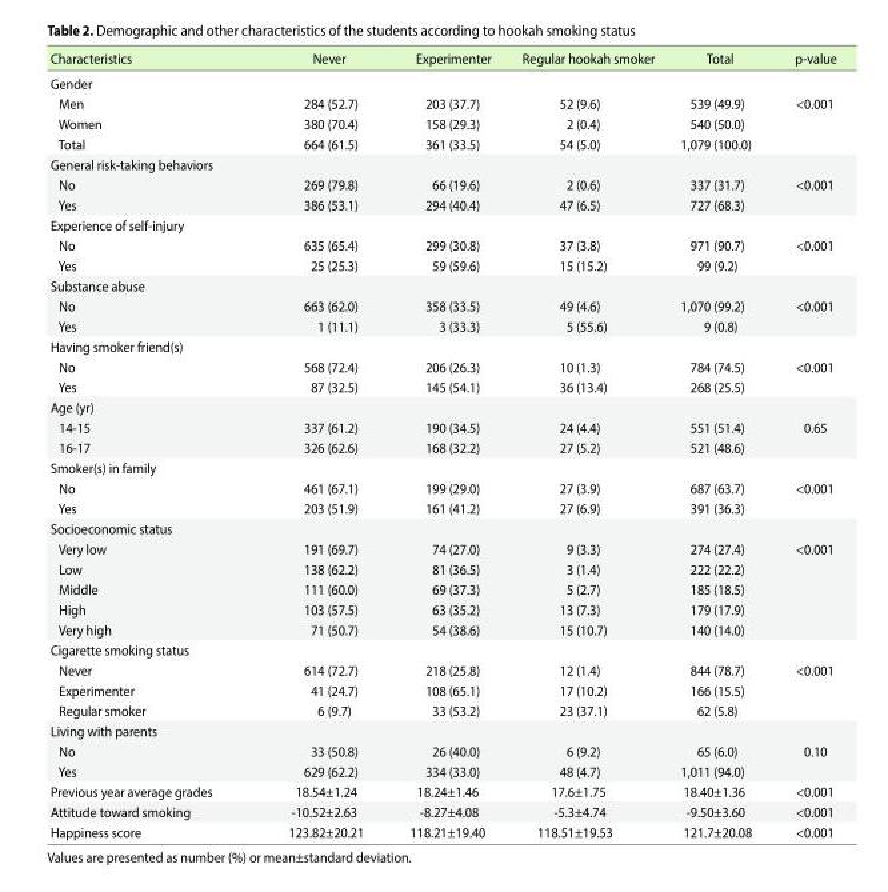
<table><thead><tr><td>Characteristics</td><td>Never</td><td>Experimenter</td><td>Regular hookah smoker</td><td>Total</td><td>p-value</td></tr></thead><tbody><tr><td colspan="6">Gender</td></tr><tr><td>Men</td><td>284 (52.7)</td><td>203 (37.7)</td><td>52 (9.6)</td><td>539 (49.9)</td><td>&lt;0.001</td></tr><tr><td>Women</td><td>380 (70.4)</td><td>158 (29.3)</td><td>2 (0.4)</td><td>540 (50.0)</td><td></td></tr><tr><td>Total</td><td>664 (61.5)</td><td>361 (33.5)</td><td>54 (5.0)</td><td>1,079 (100.0)</td><td></td></tr><tr><td colspan="6">General risk-taking behaviors</td></tr><tr><td>No</td><td>269 (79.8)</td><td>66 (19.6)</td><td>2 (0.6)</td><td>337 (31.7)</td><td>&lt;0.001</td></tr><tr><td>Yes</td><td>386 (53.1)</td><td>294 (40.4)</td><td>47 (6.5)</td><td>727 (68.3)</td><td></td></tr><tr><td colspan="6">Experience of self-injury</td></tr><tr><td>No</td><td>635 (65.4)</td><td>299 (30.8)</td><td>37 (3.8)</td><td>971 (90.7)</td><td>&lt;0.001</td></tr><tr><td>Yes</td><td>25 (25.3)</td><td>59 (59.6)</td><td>15 (15.2)</td><td>99 (9.2)</td><td></td></tr><tr><td colspan="6">Substance abuse</td></tr><tr><td>No</td><td>663 (62.0)</td><td>358 (33.5)</td><td>49 (4.6)</td><td>1,070 (99.2)</td><td>&lt;0.001</td></tr><tr><td>Yes</td><td>1 (11.1)</td><td>3 (33.3)</td><td>5 (55.6)</td><td>9 (0.8)</td><td></td></tr><tr><td colspan="6">Having smoker friend(s)</td></tr><tr><td>No</td><td>568 (72.4)</td><td>206 (26.3)</td><td>10 (1.3)</td><td>784 (74.5)</td><td>&lt;0.001</td></tr><tr><td>Yes</td><td>87 (32.5)</td><td>145 (54.1)</td><td>36 (13.4)</td><td>268 (25.5)</td><td></td></tr><tr><td colspan="6">Age (yr)</td></tr><tr><td>14-15</td><td>337 (61.2)</td><td>190 (34.5)</td><td>24 (4.4)</td><td>551 (51.4)</td><td>0.65</td></tr><tr><td>16-17</td><td>326 (62.6)</td><td>168 (32.2)</td><td>27 (5.2)</td><td>521 (48.6)</td><td></td></tr><tr><td colspan="6">Smoker(s) in family</td></tr><tr><td>No</td><td>461 (67.1)</td><td>199 (29.0)</td><td>27 (3.9)</td><td>687 (63.7)</td><td>&lt;0.001</td></tr><tr><td>Yes</td><td>203 (51.9)</td><td>161 (41.2)</td><td>27 (6.9)</td><td>391 (36.3)</td><td></td></tr><tr><td colspan="6">Socioeconomic status</td></tr><tr><td>Very low</td><td>191 (69.7)</td><td>74 (27.0)</td><td>9 (3.3)</td><td>274 (27.4)</td><td>&lt;0.001</td></tr><tr><td>Low</td><td>138 (62.2)</td><td>81 (36.5)</td><td>3 (1.4)</td><td>222 (22.2)</td><td></td></tr><tr><td>Middle</td><td>111 (60.0)</td><td>69 (37.3)</td><td>5 (2.7)</td><td>185 (18.5)</td><td></td></tr><tr><td>High</td><td>103 (57.5)</td><td>63 (35.2)</td><td>13 (7.3)</td><td>179 (17.9)</td><td></td></tr><tr><td>Very high</td><td>71 (50.7)</td><td>54 (38.6)</td><td>15 (10.7)</td><td>140 (14.0)</td><td></td></tr><tr><td colspan="6">Cigarette smoking status</td></tr><tr><td>Never</td><td>614 (72.7)</td><td>218 (25.8)</td><td>12 (1.4)</td><td>844 (78.7)</td><td>&lt;0.001</td></tr><tr><td>Experimenter</td><td>41 (24.7)</td><td>108 (65.1)</td><td>17 (10.2)</td><td>166 (15.5)</td><td></td></tr><tr><td>Regular smoker</td><td>6 (9.7)</td><td>33 (53.2)</td><td>23 (37.1)</td><td>62 (5.8)</td><td></td></tr><tr><td colspan="6">Living with parents</td></tr><tr><td>No</td><td>33 (50.8)</td><td>26 (40.0)</td><td>6 (9.2)</td><td>65 (6.0)</td><td>0.10</td></tr><tr><td>Yes</td><td>629 (62.2)</td><td>334 (33.0)</td><td>48 (4.7)</td><td>1,011 (94.0)</td><td></td></tr><tr><td>Previous year average grades</td><td>18.54±1.24</td><td>18.24±1.46</td><td>17.6±1.75</td><td>18.40±1.36</td><td>&lt;0.001</td></tr><tr><td>Attitude toward smoking</td><td>-10.52±2.63</td><td>-8.27±4.08</td><td>-5.3±4.74</td><td>-9.50±3.60</td><td>&lt;0.001</td></tr><tr><td>Happiness score</td><td>123.82±20.21</td><td>118.21±19.40</td><td>118.51±19.53</td><td>121.7±20.08</td><td>&lt;0.001</td></tr></tbody></table>